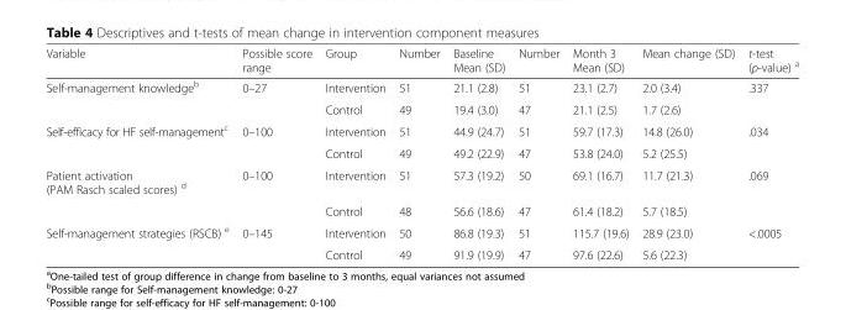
<table><thead><tr><td>Variable</td><td>Possible score range</td><td>Group</td><td>Number</td><td>Baseline Mean (SD)</td><td>Number</td><td>Month 3 Mean (SD)</td><td>Mean change (SD)</td><td>t-test (p-value) <sup>a</sup></td></tr></thead><tbody><tr><td rowspan="2">Self-management knowledge<sup>b</sup></td><td>0–27</td><td>Intervention</td><td>51</td><td>21.1 (2.8)</td><td>51</td><td>23.1 (2.7)</td><td>2.0 (3.4)</td><td>.337</td></tr><tr><td></td><td>Control</td><td>49</td><td>19.4 (3.0)</td><td>47</td><td>21.1 (2.5)</td><td>1.7 (2.6)</td><td></td></tr><tr><td rowspan="2">Self-efficacy for HF self-management<sup>c</sup></td><td>0–100</td><td>Intervention</td><td>51</td><td>44.9 (24.7)</td><td>51</td><td>59.7 (17.3)</td><td>14.8 (26.0)</td><td>.034</td></tr><tr><td></td><td>Control</td><td>49</td><td>49.2 (22.9)</td><td>47</td><td>53.8 (24.0)</td><td>5.2 (25.5)</td><td></td></tr><tr><td rowspan="2">Patient activation (PAM Rasch scaled scores) <sup>d</sup></td><td>0–100</td><td>Intervention</td><td>51</td><td>57.3 (19.2)</td><td>50</td><td>69.1 (16.7)</td><td>11.7 (21.3)</td><td>.069</td></tr><tr><td></td><td>Control</td><td>48</td><td>56.6 (18.6)</td><td>47</td><td>61.4 (18.2)</td><td>5.7 (18.5)</td><td></td></tr><tr><td rowspan="2">Self-management strategies (RSCB) <sup>e</sup></td><td>0–145</td><td>Intervention</td><td>50</td><td>86.8 (19.3)</td><td>51</td><td>115.7 (19.6)</td><td>28.9 (23.0)</td><td>&lt;.0005</td></tr><tr><td></td><td>Control</td><td>49</td><td>91.9 (19.9)</td><td>47</td><td>97.6 (22.6)</td><td>5.6 (22.3)</td><td></td></tr></tbody></table>